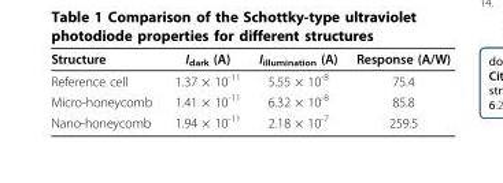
<table><thead><tr><td>Structure</td><td>I<sub>dark</sub> (A)</td><td>I<sub>illumination</sub> (A)</td><td>Response (A/W)</td></tr></thead><tbody><tr><td>Reference cell</td><td>1.37 × 10<sup>-11</sup></td><td>5.55 × 10<sup>-8</sup></td><td>75.4</td></tr><tr><td>Micro-honeycomb</td><td>1.41 × 10<sup>-11</sup></td><td>6.32 × 10<sup>-8</sup></td><td>85.8</td></tr><tr><td>Nano-honeycomb</td><td>1.94 × 10<sup>-11</sup></td><td>2.18 × 10<sup>-7</sup></td><td>259.5</td></tr></tbody></table>